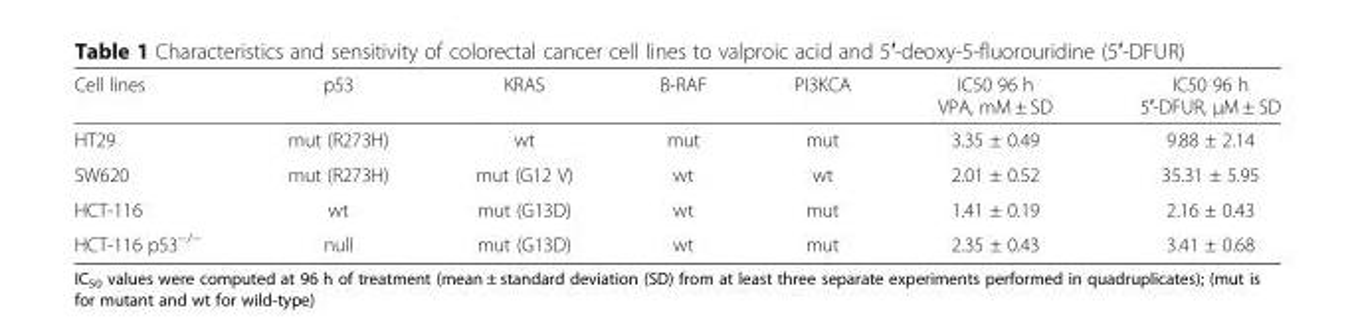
<table><thead><tr><td>Cell lines</td><td>p53</td><td>KRAS</td><td>B-RAF</td><td>PI3KCA</td><td>IC50 96 h VPA, mM ± SD</td><td>IC50 96 h 5′-DFUR, μM ± SD</td></tr></thead><tbody><tr><td>HT29</td><td>mut (R273H)</td><td>wt</td><td>mut</td><td>mut</td><td>3.35 ± 0.49</td><td>9.88 ± 2.14</td></tr><tr><td>SW620</td><td>mut (R273H)</td><td>mut (G12 V)</td><td>wt</td><td>wt</td><td>2.01 ± 0.52</td><td>35.31 ± 5.95</td></tr><tr><td>HCT-116</td><td>wt</td><td>mut (G13D)</td><td>wt</td><td>mut</td><td>1.41 ± 0.19</td><td>2.16 ± 0.43</td></tr><tr><td>HCT-116 p53<sup>−/−</sup></td><td>null</td><td>mut (G13D)</td><td>wt</td><td>mut</td><td>2.35 ± 0.43</td><td>3.41 ± 0.68</td></tr></tbody></table>